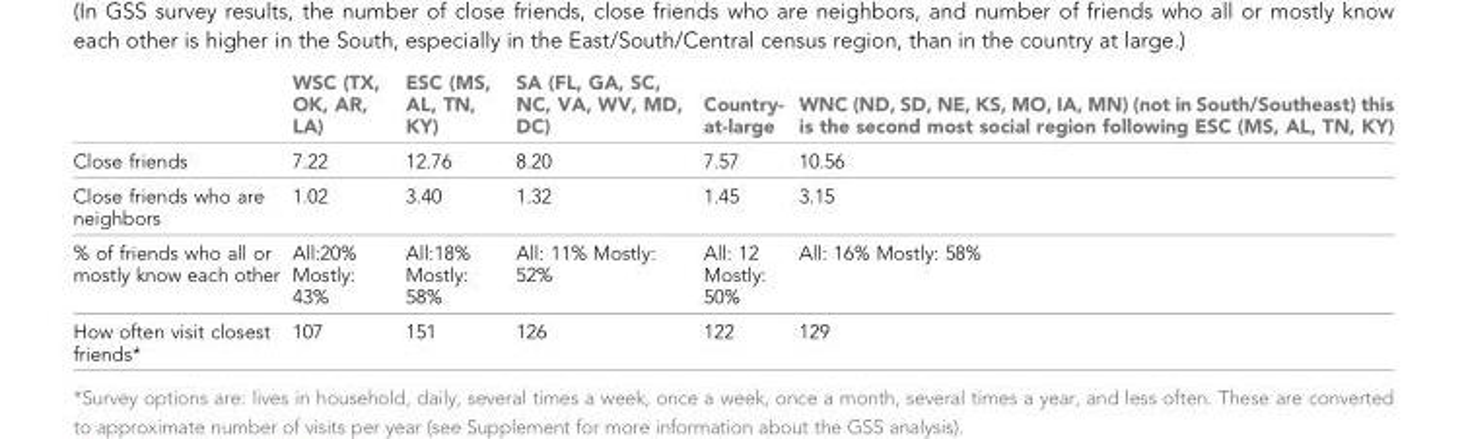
<table><thead><tr><td></td><td>WSC (TX, OK, AR, LA)</td><td>ESC (MS, AL, TN, KY)</td><td>SA (FL, GA, SC, NC, VA, WV, MD, DC)</td><td>Country- at-large</td><td>WNC (ND, SD, NE, KS, MO, IA, MN) (not in South/Southeast) this is the second most social region following ESC (MS, AL, TN, KY)</td></tr></thead><tbody><tr><td>Close friends</td><td>7.22</td><td>12.76</td><td>8.20</td><td>7.57</td><td>10.56</td></tr><tr><td>Close friends who are neighbors</td><td>1.02</td><td>3.40</td><td>1.32</td><td>1.45</td><td>3.15</td></tr><tr><td>% of friends who all or mostly know each other</td><td>All:20% Mostly: 43%</td><td>All:18% Mostly: 58%</td><td>All: 11% Mostly: 52%</td><td>All: 12 Mostly: 50%</td><td>All: 16% Mostly: 58%</td></tr><tr><td>How often visit closest friends*</td><td>107</td><td>151</td><td>126</td><td>122</td><td>129</td></tr></tbody></table>